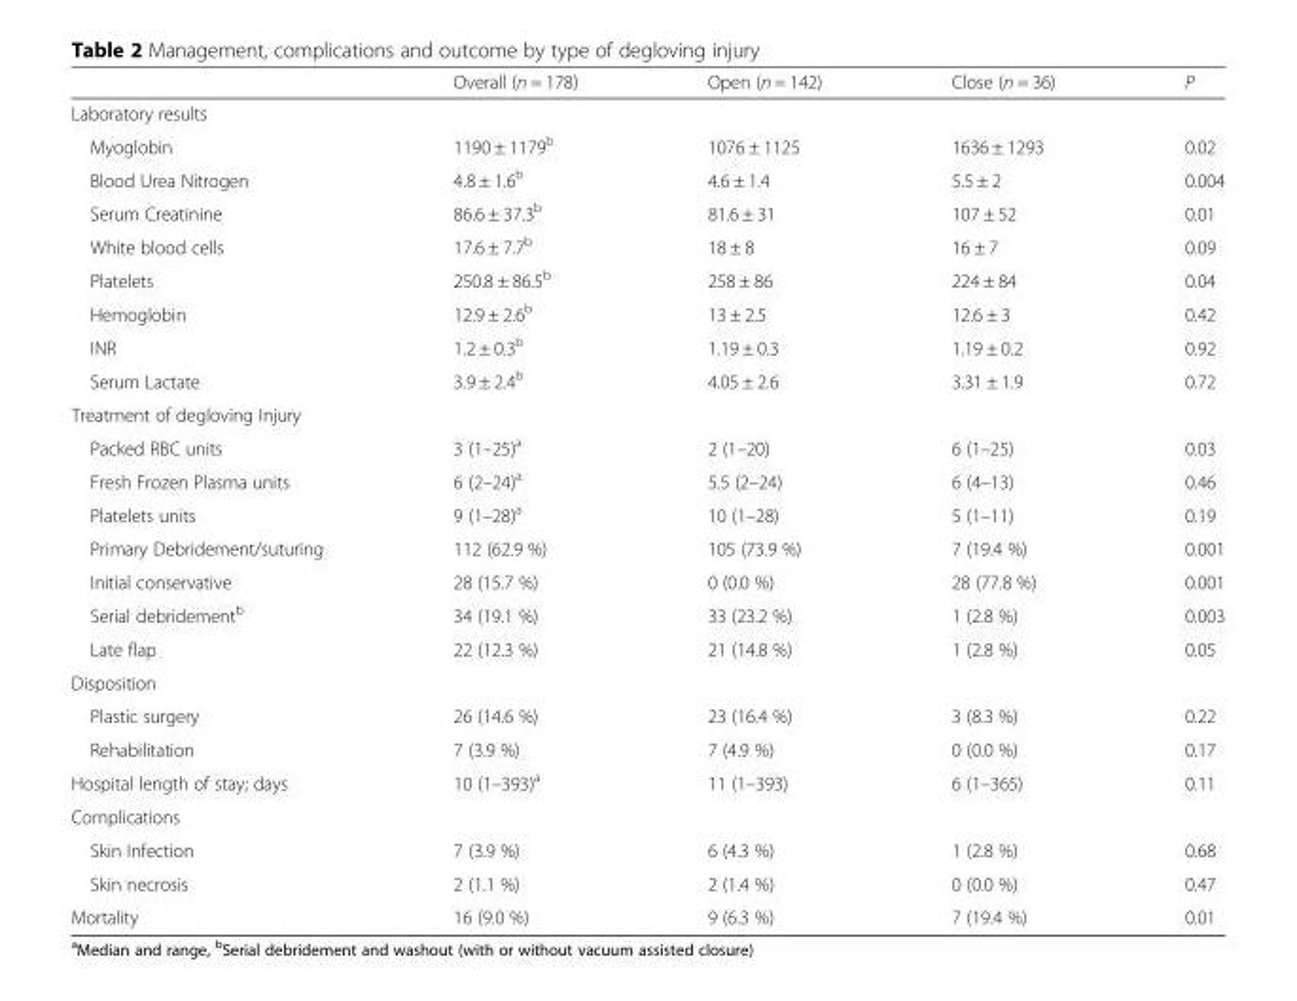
<table><thead><tr><td></td><td>Overall (n = 178)</td><td>Open (n = 142)</td><td>Close (n = 36)</td><td>P</td></tr></thead><tbody><tr><td colspan="5">Laboratory results</td></tr><tr><td>Myoglobin</td><td>1190 ± 1179<sup>b</sup></td><td>1076 ± 1125</td><td>1636 ± 1293</td><td>0.02</td></tr><tr><td>Blood Urea Nitrogen</td><td>4.8 ± 1.6<sup>b</sup></td><td>4.6 ± 1.4</td><td>5.5 ± 2</td><td>0.004</td></tr><tr><td>Serum Creatinine</td><td>86.6 ± 37.3<sup>b</sup></td><td>81.6 ± 31</td><td>107 ± 52</td><td>0.01</td></tr><tr><td>White blood cells</td><td>17.6 ± 7.7<sup>b</sup></td><td>18 ± 8</td><td>16 ± 7</td><td>0.09</td></tr><tr><td>Platelets</td><td>250.8 ± 86.5<sup>b</sup></td><td>258 ± 86</td><td>224 ± 84</td><td>0.04</td></tr><tr><td>Hemoglobin</td><td>12.9 ± 2.6<sup>b</sup></td><td>13 ± 2.5</td><td>12.6 ± 3</td><td>0.42</td></tr><tr><td>INR</td><td>1.2 ± 0.3<sup>b</sup></td><td>1.19 ± 0.3</td><td>1.19 ± 0.2</td><td>0.92</td></tr><tr><td>Serum Lactate</td><td>3.9 ± 2.4<sup>b</sup></td><td>4.05 ± 2.6</td><td>3.31 ± 1.9</td><td>0.72</td></tr><tr><td colspan="5">Treatment of degloving Injury</td></tr><tr><td>Packed RBC units</td><td>3 (1–25)<sup>a</sup></td><td>2 (1–20)</td><td>6 (1–25)</td><td>0.03</td></tr><tr><td>Fresh Frozen Plasma units</td><td>6 (2–24)<sup>a</sup></td><td>5.5 (2–24)</td><td>6 (4–13)</td><td>0.46</td></tr><tr><td>Platelets units</td><td>9 (1–28)<sup>a</sup></td><td>10 (1–28)</td><td>5 (1–11)</td><td>0.19</td></tr><tr><td>Primary Debridement/suturing</td><td>112 (62.9 %)</td><td>105 (73.9 %)</td><td>7 (19.4 %)</td><td>0.001</td></tr><tr><td>Initial conservative</td><td>28 (15.7 %)</td><td>0 (0.0 %)</td><td>28 (77.8 %)</td><td>0.001</td></tr><tr><td>Serial debridement<sup>b</sup></td><td>34 (19.1 %)</td><td>33 (23.2 %)</td><td>1 (2.8 %)</td><td>0.003</td></tr><tr><td>Late flap</td><td>22 (12.3 %)</td><td>21 (14.8 %)</td><td>1 (2.8 %)</td><td>0.05</td></tr><tr><td colspan="5">Disposition</td></tr><tr><td>Plastic surgery</td><td>26 (14.6 %)</td><td>23 (16.4 %)</td><td>3 (8.3 %)</td><td>0.22</td></tr><tr><td>Rehabilitation</td><td>7 (3.9 %)</td><td>7 (4.9 %)</td><td>0 (0.0 %)</td><td>0.17</td></tr><tr><td>Hospital length of stay; days</td><td>10 (1–393)<sup>a</sup></td><td>11 (1–393)</td><td>6 (1–365)</td><td>0.11</td></tr><tr><td colspan="5">Complications</td></tr><tr><td>Skin Infection</td><td>7 (3.9 %)</td><td>6 (4.3 %)</td><td>1 (2.8 %)</td><td>0.68</td></tr><tr><td>Skin necrosis</td><td>2 (1.1 %)</td><td>2 (1.4 %)</td><td>0 (0.0 %)</td><td>0.47</td></tr><tr><td>Mortality</td><td>16 (9.0 %)</td><td>9 (6.3 %)</td><td>7 (19.4 %)</td><td>0.01</td></tr></tbody></table>